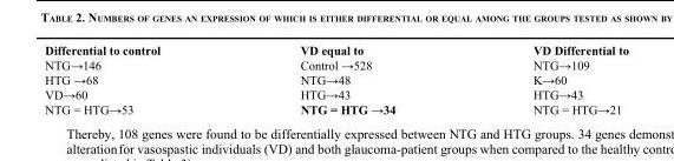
<table><thead><tr><td>Differential to control</td><td>VD equal to</td><td>VD Differential to</td></tr></thead><tbody><tr><td>NTG→146</td><td>Control →528</td><td>NTG→109</td></tr><tr><td>HTG →68</td><td>NTG→48</td><td>K→60</td></tr><tr><td>VD→60</td><td>HTG→43</td><td>HTG→43</td></tr><tr><td>NTG = HTG→53</td><td>NTG = HTG →34</td><td>NTG = HTG→21</td></tr></tbody></table>